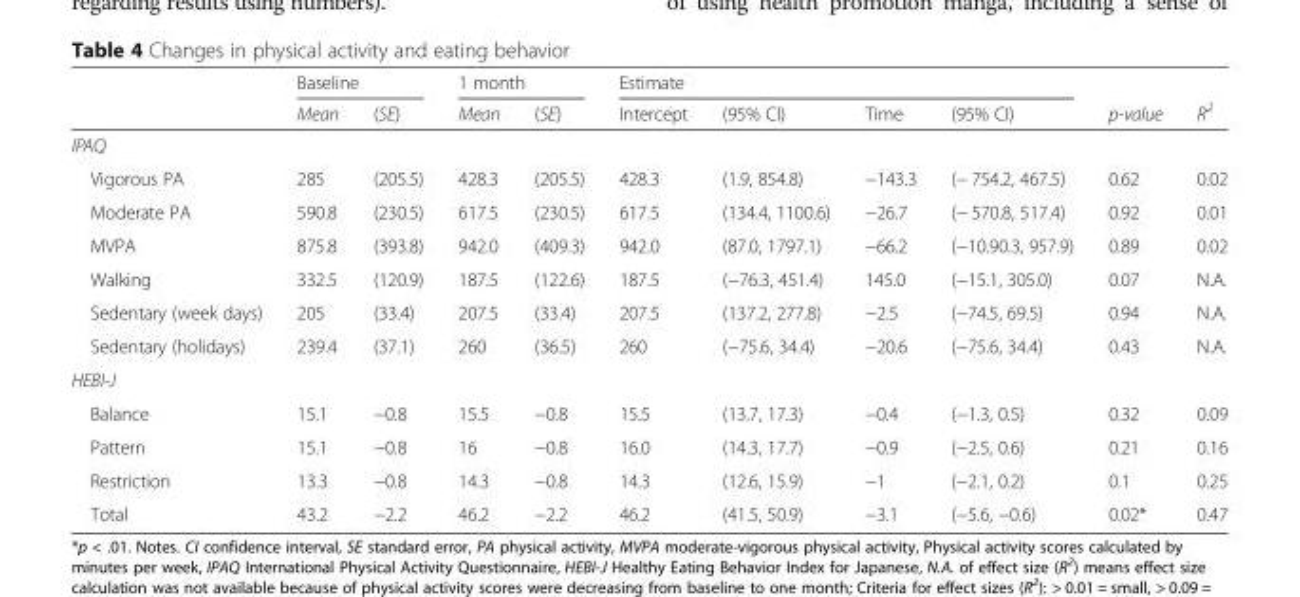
<table><thead><tr><td rowspan="2"></td><td colspan="2">Baseline</td><td colspan="2">1 month</td><td colspan="4">Estimate</td><td rowspan="2">p-value</td><td rowspan="2">R<sup>2</sup></td></tr><tr><td>Mean</td><td>(SE)</td><td>Mean</td><td>(SE)</td><td>Intercept</td><td>(95% CI)</td><td>Time</td><td>(95% CI)</td></tr></thead><tbody><tr><td colspan="11">IPAQ</td></tr><tr><td>Vigorous PA</td><td>285</td><td>(205.5)</td><td>428.3</td><td>(205.5)</td><td>428.3</td><td>(1.9, 854.8)</td><td>−143.3</td><td>(− 754.2, 467.5)</td><td>0.62</td><td>0.02</td></tr><tr><td>Moderate PA</td><td>590.8</td><td>(230.5)</td><td>617.5</td><td>(230.5)</td><td>617.5</td><td>(134.4, 1100.6)</td><td>−26.7</td><td>(− 570.8, 517.4)</td><td>0.92</td><td>0.01</td></tr><tr><td>MVPA</td><td>875.8</td><td>(393.8)</td><td>942.0</td><td>(409.3)</td><td>942.0</td><td>(87.0, 1797.1)</td><td>−66.2</td><td>(−10.90.3, 957.9)</td><td>0.89</td><td>0.02</td></tr><tr><td>Walking</td><td>332.5</td><td>(120.9)</td><td>187.5</td><td>(122.6)</td><td>187.5</td><td>(−76.3, 451.4)</td><td>145.0</td><td>(−15.1, 305.0)</td><td>0.07</td><td>N.A.</td></tr><tr><td>Sedentary (week days)</td><td>205</td><td>(33.4)</td><td>207.5</td><td>(33.4)</td><td>207.5</td><td>(137.2, 277.8)</td><td>−2.5</td><td>(−74.5, 69.5)</td><td>0.94</td><td>N.A.</td></tr><tr><td>Sedentary (holidays)</td><td>239.4</td><td>(37.1)</td><td>260</td><td>(36.5)</td><td>260</td><td>(−75.6, 34.4)</td><td>−20.6</td><td>(−75.6, 34.4)</td><td>0.43</td><td>N.A.</td></tr><tr><td colspan="11">HEBI-J</td></tr><tr><td>Balance</td><td>15.1</td><td>−0.8</td><td>15.5</td><td>−0.8</td><td>15.5</td><td>(13.7, 17.3)</td><td>−0.4</td><td>(−1.3, 0.5)</td><td>0.32</td><td>0.09</td></tr><tr><td>Pattern</td><td>15.1</td><td>−0.8</td><td>16</td><td>−0.8</td><td>16.0</td><td>(14.3, 17.7)</td><td>−0.9</td><td>(−2.5, 0.6)</td><td>0.21</td><td>0.16</td></tr><tr><td>Restriction</td><td>13.3</td><td>−0.8</td><td>14.3</td><td>−0.8</td><td>14.3</td><td>(12.6, 15.9)</td><td>−1</td><td>(−2.1, 0.2)</td><td>0.1</td><td>0.25</td></tr><tr><td>Total</td><td>43.2</td><td>−2.2</td><td>46.2</td><td>−2.2</td><td>46.2</td><td>(41.5, 50.9)</td><td>−3.1</td><td>(−5.6, −0.6)</td><td>0.02*</td><td>0.47</td></tr></tbody></table>